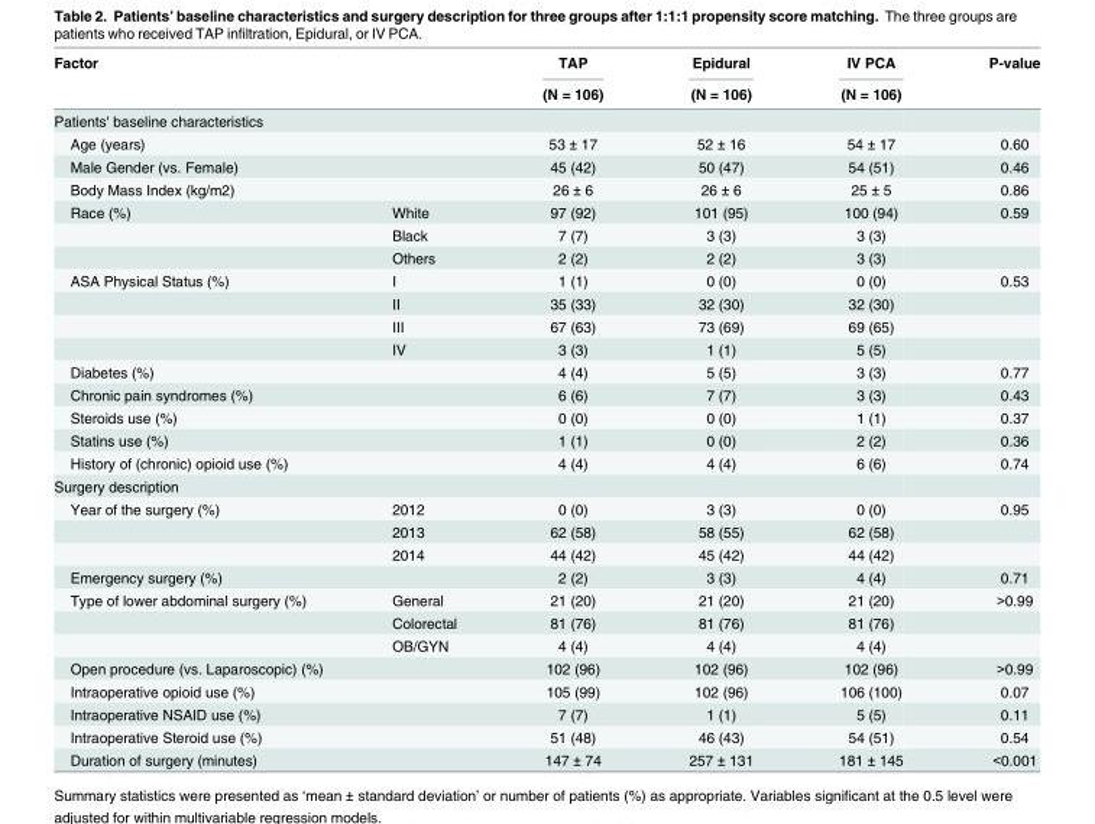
<table><thead><tr><td rowspan="2">Factor</td><td rowspan="2"></td><td rowspan="2">TAP (N = 106)</td><td rowspan="2">Epidural (N = 106)</td><td rowspan="2">IV PCA (N = 106)</td><td rowspan="2">P-value</td></tr><tr></tr></thead><tbody><tr><td colspan="6">Patients&#x27; baseline characteristics</td></tr><tr><td>Age (years)</td><td></td><td>53 ± 17</td><td>52 ± 16</td><td>54 ± 17</td><td>0.60</td></tr><tr><td>Male Gender (vs. Female)</td><td></td><td>45 (42)</td><td>50 (47)</td><td>54 (51)</td><td>0.46</td></tr><tr><td>Body Mass Index (kg/m2)</td><td></td><td>26 ± 6</td><td>26 ± 6</td><td>25 ± 5</td><td>0.86</td></tr><tr><td rowspan="3">Race (%)</td><td>White</td><td>97 (92)</td><td>101 (95)</td><td>100 (94)</td><td>0.59</td></tr><tr><td>Black</td><td>7 (7)</td><td>3 (3)</td><td>3 (3)</td><td></td></tr><tr><td>Others</td><td>2 (2)</td><td>2 (2)</td><td>3 (3)</td><td></td></tr><tr><td rowspan="4">ASA Physical Status (%)</td><td>I</td><td>1 (1)</td><td>0 (0)</td><td>0 (0)</td><td>0.53</td></tr><tr><td>II</td><td>35 (33)</td><td>32 (30)</td><td>32 (30)</td><td></td></tr><tr><td>III</td><td>67 (63)</td><td>73 (69)</td><td>69 (65)</td><td></td></tr><tr><td>IV</td><td>3 (3)</td><td>1 (1)</td><td>5 (5)</td><td></td></tr><tr><td>Diabetes (%)</td><td></td><td>4 (4)</td><td>5 (5)</td><td>3 (3)</td><td>0.77</td></tr><tr><td>Chronic pain syndromes (%)</td><td></td><td>6 (6)</td><td>7 (7)</td><td>3 (3)</td><td>0.43</td></tr><tr><td>Steroids use (%)</td><td></td><td>0 (0)</td><td>0 (0)</td><td>1 (1)</td><td>0.37</td></tr><tr><td>Statins use (%)</td><td></td><td>1 (1)</td><td>0 (0)</td><td>2 (2)</td><td>0.36</td></tr><tr><td>History of (chronic) opioid use (%)</td><td></td><td>4 (4)</td><td>4 (4)</td><td>6 (6)</td><td>0.74</td></tr><tr><td colspan="6">Surgery description</td></tr><tr><td rowspan="3">Year of the surgery (%)</td><td>2012</td><td>0 (0)</td><td>3 (3)</td><td>0 (0)</td><td>0.95</td></tr><tr><td>2013</td><td>62 (58)</td><td>58 (55)</td><td>62 (58)</td><td></td></tr><tr><td>2014</td><td>44 (42)</td><td>45 (42)</td><td>44 (42)</td><td></td></tr><tr><td>Emergency surgery (%)</td><td></td><td>2 (2)</td><td>3 (3)</td><td>4 (4)</td><td>0.71</td></tr><tr><td rowspan="3">Type of lower abdominal surgery (%)</td><td>General</td><td>21 (20)</td><td>21 (20)</td><td>21 (20)</td><td>&gt;0.99</td></tr><tr><td>Colorectal</td><td>81 (76)</td><td>81 (76)</td><td>81 (76)</td><td></td></tr><tr><td>OB/GYN</td><td>4 (4)</td><td>4 (4)</td><td>4 (4)</td><td></td></tr><tr><td colspan="2">Open procedure (vs. Laparoscopic) (%)</td><td>102 (96)</td><td>102 (96)</td><td>102 (96)</td><td>&gt;0.99</td></tr><tr><td>Intraoperative opioid use (%)</td><td></td><td>105 (99)</td><td>102 (96)</td><td>106 (100)</td><td>0.07</td></tr><tr><td>Intraoperative NSAID use (%)</td><td></td><td>7 (7)</td><td>1 (1)</td><td>5 (5)</td><td>0.11</td></tr><tr><td>Intraoperative Steroid use (%)</td><td></td><td>51 (48)</td><td>46 (43)</td><td>54 (51)</td><td>0.54</td></tr><tr><td>Duration of surgery (minutes)</td><td></td><td>147 ± 74</td><td>257 ± 131</td><td>181 ± 145</td><td>&lt;0.001</td></tr></tbody></table>